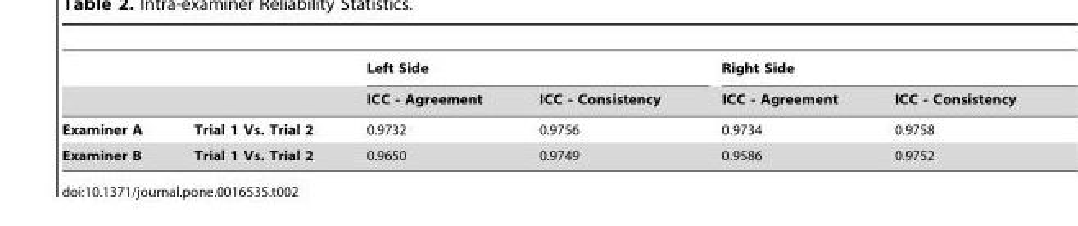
<table><thead><tr><td rowspan="2"></td><td rowspan="2"></td><td colspan="2">Left Side</td><td colspan="2">Right Side</td></tr><tr><td>ICC - Agreement</td><td>ICC - Consistency</td><td>ICC - Agreement</td><td>ICC - Consistency</td></tr></thead><tbody><tr><td>Examiner A</td><td>Trial 1 Vs. Trial 2</td><td>0.9732</td><td>0.9756</td><td>0.9734</td><td>0.9758</td></tr><tr><td>Examiner B</td><td>Trial 1 Vs. Trial 2</td><td>0.9650</td><td>0.9749</td><td>0.9586</td><td>0.9752</td></tr></tbody></table>